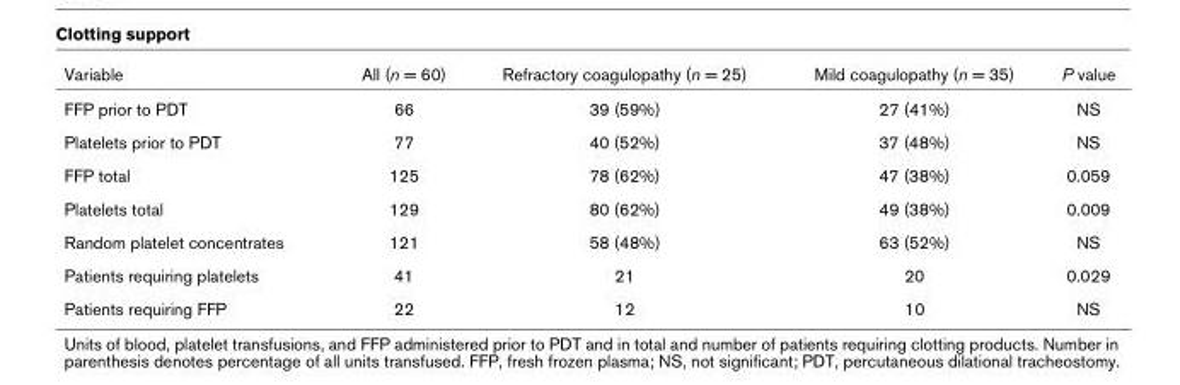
<table><thead><tr><td>Variable</td><td>All (n = 60)</td><td>Refractory coagulopathy (n = 25)</td><td>Mild coagulopathy (n = 35)</td><td>P value</td></tr></thead><tbody><tr><td>FFP prior to PDT</td><td>66</td><td>39 (59%)</td><td>27 (41%)</td><td>NS</td></tr><tr><td>Platelets prior to PDT</td><td>77</td><td>40 (52%)</td><td>37 (48%)</td><td>NS</td></tr><tr><td>FFP total</td><td>125</td><td>78 (62%)</td><td>47 (38%)</td><td>0.059</td></tr><tr><td>Platelets total</td><td>129</td><td>80 (62%)</td><td>49 (38%)</td><td>0.009</td></tr><tr><td>Random platelet concentrates</td><td>121</td><td>58 (48%)</td><td>63 (52%)</td><td>NS</td></tr><tr><td>Patients requiring platelets</td><td>41</td><td>21</td><td>20</td><td>0.029</td></tr><tr><td>Patients requiring FFP</td><td>22</td><td>12</td><td>10</td><td>NS</td></tr></tbody></table>